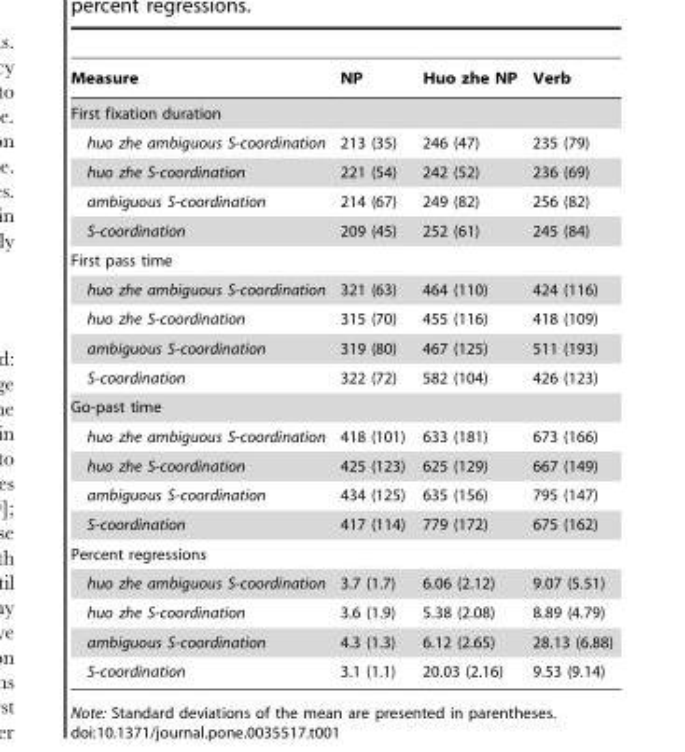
<table><thead><tr><td>Measure</td><td>NP</td><td>Huo zhe NP</td><td>Verb</td></tr></thead><tbody><tr><td colspan="4">First fixation duration</td></tr><tr><td>huo zhe ambiguous S-coordination</td><td>213 (35)</td><td>246 (47)</td><td>235 (79)</td></tr><tr><td>huo zhe S-coordination</td><td>221 (54)</td><td>242 (52)</td><td>236 (69)</td></tr><tr><td>ambiguous S-coordination</td><td>214 (67)</td><td>249 (82)</td><td>256 (82)</td></tr><tr><td>S-coordination</td><td>209 (45)</td><td>252 (61)</td><td>245 (84)</td></tr><tr><td colspan="4">First pass time</td></tr><tr><td>huo zhe ambiguous S-coordination</td><td>321 (63)</td><td>464 (110)</td><td>424 (116)</td></tr><tr><td>huo zhe S-coordination</td><td>315 (70)</td><td>455 (116)</td><td>418 (109)</td></tr><tr><td>ambiguous S-coordination</td><td>319 (80)</td><td>467 (125)</td><td>511 (193)</td></tr><tr><td>S-coordination</td><td>322 (72)</td><td>582 (104)</td><td>426 (123)</td></tr><tr><td colspan="4">Go-past time</td></tr><tr><td>huo zhe ambiguous S-coordination</td><td>418 (101)</td><td>633 (181)</td><td>673 (166)</td></tr><tr><td>huo zhe S-coordination</td><td>425 (123)</td><td>625 (129)</td><td>667 (149)</td></tr><tr><td>ambiguous S-coordination</td><td>434 (125)</td><td>635 (156)</td><td>795 (147)</td></tr><tr><td>S-coordination</td><td>417 (114)</td><td>779 (172)</td><td>675 (162)</td></tr><tr><td colspan="4">Percent regressions</td></tr><tr><td>huo zhe ambiguous S-coordination</td><td>3.7 (1.7)</td><td>6.06 (2.12)</td><td>9.07 (5.51)</td></tr><tr><td>huo zhe S-coordination</td><td>3.6 (1.9)</td><td>5.38 (2.08)</td><td>8.89 (4.79)</td></tr><tr><td>ambiguous S-coordination</td><td>4.3 (1.3)</td><td>6.12 (2.65)</td><td>28.13 (6.88)</td></tr><tr><td>S-coordination</td><td>3.1 (1.1)</td><td>20.03 (2.16)</td><td>9.53 (9.14)</td></tr></tbody></table>